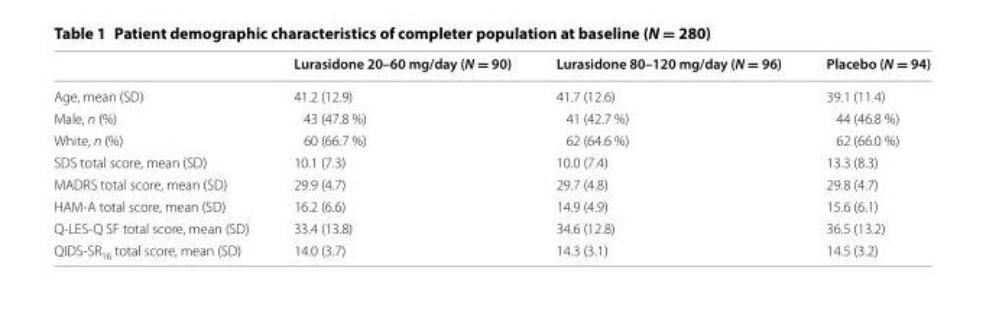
<table><thead><tr><td></td><td>Lurasidone 20–60 mg/day (N = 90)</td><td>Lurasidone 80–120 mg/day (N = 96)</td><td>Placebo (N = 94)</td></tr></thead><tbody><tr><td>Age, mean (SD)</td><td>41.2 (12.9)</td><td>41.7 (12.6)</td><td>39.1 (11.4)</td></tr><tr><td>Male, n (%)</td><td>43 (47.8 %)</td><td>41 (42.7 %)</td><td>44 (46.8 %)</td></tr><tr><td>White, n (%)</td><td>60 (66.7 %)</td><td>62 (64.6 %)</td><td>62 (66.0 %)</td></tr><tr><td>SDS total score, mean (SD)</td><td>10.1 (7.3)</td><td>10.0 (7.4)</td><td>13.3 (8.3)</td></tr><tr><td>MADRS total score, mean (SD)</td><td>29.9 (4.7)</td><td>29.7 (4.8)</td><td>29.8 (4.7)</td></tr><tr><td>HAM-A total score, mean (SD)</td><td>16.2 (6.6)</td><td>14.9 (4.9)</td><td>15.6 (6.1)</td></tr><tr><td>Q-LES-Q SF total score, mean (SD)</td><td>33.4 (13.8)</td><td>34.6 (12.8)</td><td>36.5 (13.2)</td></tr><tr><td>QIDS-SR<sub>16</sub> total score, mean (SD)</td><td>14.0 (3.7)</td><td>14.3 (3.1)</td><td>14.5 (3.2)</td></tr></tbody></table>